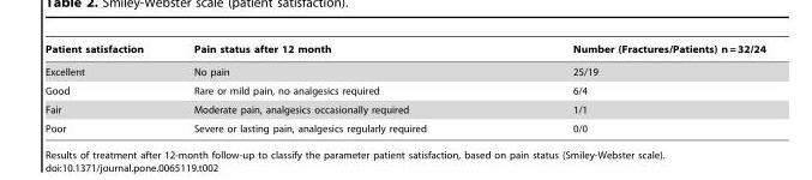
<table><thead><tr><td>Patient satisfaction</td><td>Pain status after 12 month</td><td>Number (Fractures/Patients) n = 32/24</td></tr></thead><tbody><tr><td>Excellent</td><td>No pain</td><td>25/19</td></tr><tr><td>Good</td><td>Rare or mild pain, no analgesics required</td><td>6/4</td></tr><tr><td>Fair</td><td>Moderate pain, analgesics occasionally required</td><td>1/1</td></tr><tr><td>Poor</td><td>Severe or lasting pain, analgesics regularly required</td><td>0/0</td></tr></tbody></table>